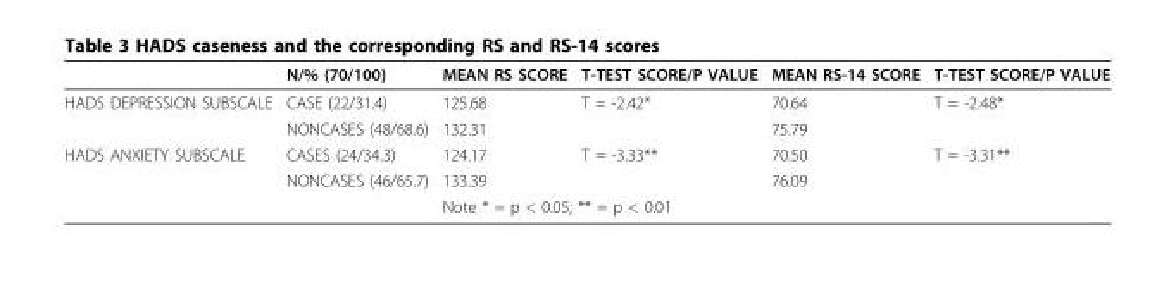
<table><thead><tr><td></td><td>N/% (70/100)</td><td>MEAN RS SCORE</td><td>T-TEST SCORE/P VALUE</td><td>MEAN RS-14 SCORE</td><td>T-TEST SCORE/P VALUE</td></tr></thead><tbody><tr><td rowspan="2">HADS DEPRESSION SUBSCALE</td><td>CASE (22/31.4)</td><td>125.68</td><td>T = -2.42*</td><td>70.64</td><td>T = -2.48*</td></tr><tr><td>NONCASES (48/68.6)</td><td>132.31</td><td></td><td>75.79</td><td></td></tr><tr><td rowspan="3">HADS ANXIETY SUBSCALE</td><td>CASES (24/34.3)</td><td>124.17</td><td>T = -3.33**</td><td>70.50</td><td>T = -3.31**</td></tr><tr><td>NONCASES (46/65.7)</td><td>133.39</td><td></td><td>76.09</td><td></td></tr><tr><td></td><td colspan="4">Note * = p &lt; 0.05; ** = p &lt; 0.01</td></tr></tbody></table>